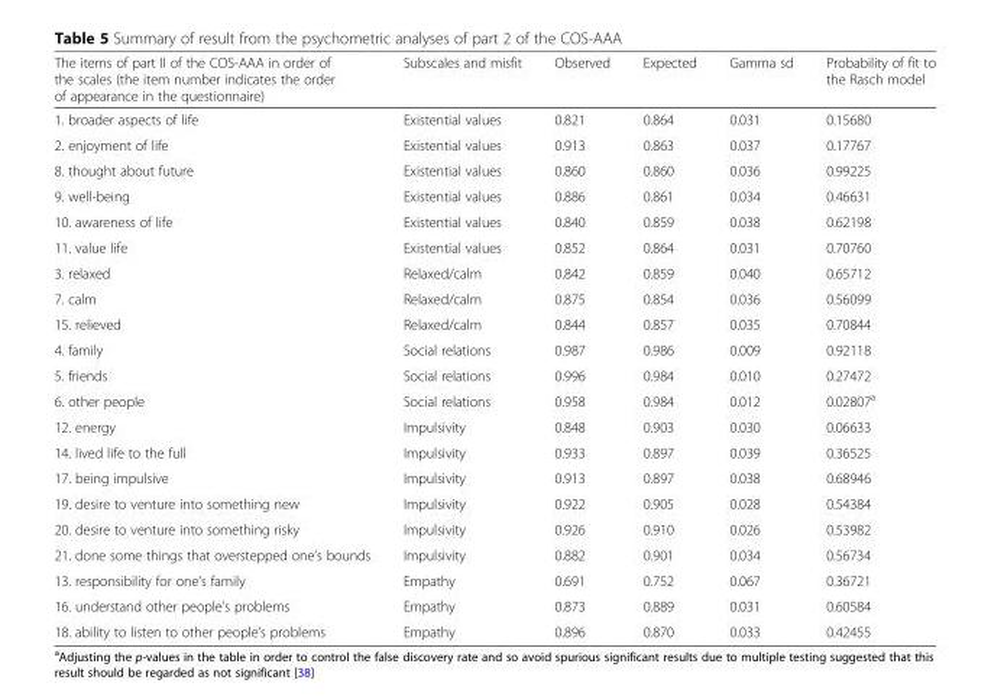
<table><thead><tr><td>The items of part II of the COS-AAA in order of the scales (the item number indicates the order of appearance in the questionnaire)</td><td>Subscales and misfit</td><td>Observed</td><td>Expected</td><td>Gamma sd</td><td>Probability of fit to the Rasch model</td></tr></thead><tbody><tr><td>1. broader aspects of life</td><td>Existential values</td><td>0.821</td><td>0.864</td><td>0.031</td><td>0.15680</td></tr><tr><td>2. enjoyment of life</td><td>Existential values</td><td>0.913</td><td>0.863</td><td>0.037</td><td>0.17767</td></tr><tr><td>8. thought about future</td><td>Existential values</td><td>0.860</td><td>0.860</td><td>0.036</td><td>0.99225</td></tr><tr><td>9. well-being</td><td>Existential values</td><td>0.886</td><td>0.861</td><td>0.034</td><td>0.46631</td></tr><tr><td>10. awareness of life</td><td>Existential values</td><td>0.840</td><td>0.859</td><td>0.038</td><td>0.62198</td></tr><tr><td>11. value life</td><td>Existential values</td><td>0.852</td><td>0.864</td><td>0.031</td><td>0.70760</td></tr><tr><td>3. relaxed</td><td>Relaxed/calm</td><td>0.842</td><td>0.859</td><td>0.040</td><td>0.65712</td></tr><tr><td>7. calm</td><td>Relaxed/calm</td><td>0.875</td><td>0.854</td><td>0.036</td><td>0.56099</td></tr><tr><td>15. relieved</td><td>Relaxed/calm</td><td>0.844</td><td>0.857</td><td>0.035</td><td>0.70844</td></tr><tr><td>4. family</td><td>Social relations</td><td>0.987</td><td>0.986</td><td>0.009</td><td>0.92118</td></tr><tr><td>5. friends</td><td>Social relations</td><td>0.996</td><td>0.984</td><td>0.010</td><td>0.27472</td></tr><tr><td>6. other people</td><td>Social relations</td><td>0.958</td><td>0.984</td><td>0.012</td><td>0.02807a</td></tr><tr><td>12. energy</td><td>Impulsivity</td><td>0.848</td><td>0.903</td><td>0.030</td><td>0.06633</td></tr><tr><td>14. lived life to the full</td><td>Impulsivity</td><td>0.933</td><td>0.897</td><td>0.039</td><td>0.36525</td></tr><tr><td>17. being impulsive</td><td>Impulsivity</td><td>0.913</td><td>0.897</td><td>0.038</td><td>0.68946</td></tr><tr><td>19. desire to venture into something new</td><td>Impulsivity</td><td>0.922</td><td>0.905</td><td>0.028</td><td>0.54384</td></tr><tr><td>20. desire to venture into something risky</td><td>Impulsivity</td><td>0.926</td><td>0.910</td><td>0.026</td><td>0.53982</td></tr><tr><td>21. done some things that overstepped one’s bounds</td><td>Impulsivity</td><td>0.882</td><td>0.901</td><td>0.034</td><td>0.56734</td></tr><tr><td>13. responsibility for one’s family</td><td>Empathy</td><td>0.691</td><td>0.752</td><td>0.067</td><td>0.36721</td></tr><tr><td>16. understand other people’s problems</td><td>Empathy</td><td>0.873</td><td>0.889</td><td>0.031</td><td>0.60584</td></tr><tr><td>18. ability to listen to other people’s problems</td><td>Empathy</td><td>0.896</td><td>0.870</td><td>0.033</td><td>0.42455</td></tr></tbody></table>